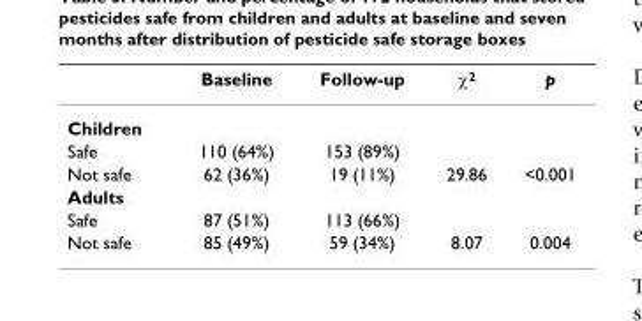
<table><thead><tr><td></td><td>Baseline</td><td>Follow-up</td><td>χ<sup>2</sup></td><td>p</td></tr></thead><tbody><tr><td colspan="5">Children</td></tr><tr><td>Safe</td><td>110 (64%)</td><td>153 (89%)</td><td></td><td></td></tr><tr><td>Not safe</td><td>62 (36%)</td><td>19 (11%)</td><td>29.86</td><td>&lt;0.001</td></tr><tr><td colspan="5">Adults</td></tr><tr><td>Safe</td><td>87 (51%)</td><td>113 (66%)</td><td></td><td></td></tr><tr><td>Not safe</td><td>85 (49%)</td><td>59 (34%)</td><td>8.07</td><td>0.004</td></tr></tbody></table>